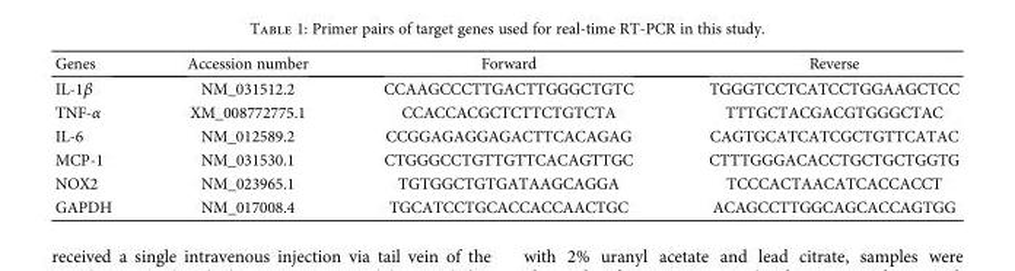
<table><thead><tr><td>Genes</td><td>Accession number</td><td>Forward</td><td>Reverse</td></tr></thead><tbody><tr><td>IL-1β</td><td>NM_031512.2</td><td>CCAAGCCCTTGACTTGGGCTGTC</td><td>TGGGTCCTCATCCTGGAAGCTCC</td></tr><tr><td>TNF-α</td><td>XM_008772775.1</td><td>CCACCACGCTCTTCTGTCTA</td><td>TTTGCTACGACGTGGGCTAC</td></tr><tr><td>IL-6</td><td>NM_012589.2</td><td>CCGGAGAGGAGACTTCACAGAG</td><td>CAGTGCATCATCGCTGTTCATAC</td></tr><tr><td>MCP-1</td><td>NM_031530.1</td><td>CTGGGCCTGTTGTTCACAGTTGC</td><td>CTTTGGGACACCTGCTGCTGGTG</td></tr><tr><td>NOX2</td><td>NM_023965.1</td><td>TGTGGCTGTGATAAGCAGGA</td><td>TCCCACTAACATCACCACCT</td></tr><tr><td>GAPDH</td><td>NM_017008.4</td><td>TGCATCCTGCACCACCAACTGC</td><td>ACAGCCTTGGCAGCACCAGTGG</td></tr></tbody></table>